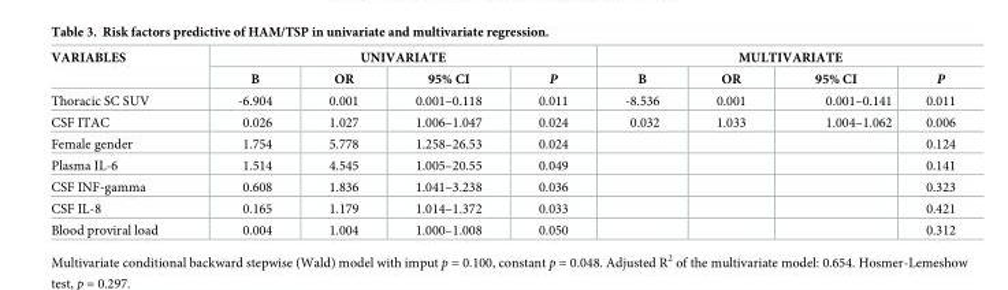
<table><thead><tr><td rowspan="2">VARIABLES</td><td colspan="4">UNIVARIATE</td><td colspan="4">MULTIVARIATE</td></tr><tr><td>B</td><td>OR</td><td>95% CI</td><td>P</td><td>B</td><td>OR</td><td>95% CI</td><td>P</td></tr></thead><tbody><tr><td>Thoracic SC SUV</td><td>-6.904</td><td>0.001</td><td>0.001–0.118</td><td>0.011</td><td>-8.536</td><td>0.001</td><td>0.001–0.141</td><td>0.011</td></tr><tr><td>CSF ITAC</td><td>0.026</td><td>1.027</td><td>1.006–1.047</td><td>0.024</td><td>0.032</td><td>1.033</td><td>1.004–1.062</td><td>0.006</td></tr><tr><td>Female gender</td><td>1.754</td><td>5.778</td><td>1.258–26.53</td><td>0.024</td><td></td><td></td><td></td><td>0.124</td></tr><tr><td>Plasma IL-6</td><td>1.514</td><td>4.545</td><td>1.005–20.55</td><td>0.049</td><td></td><td></td><td></td><td>0.141</td></tr><tr><td>CSF INF-gamma</td><td>0.608</td><td>1.836</td><td>1.041–3.238</td><td>0.036</td><td></td><td></td><td></td><td>0.323</td></tr><tr><td>CSF IL-8</td><td>0.165</td><td>1.179</td><td>1.014–1.372</td><td>0.033</td><td></td><td></td><td></td><td>0.421</td></tr><tr><td>Blood proviral load</td><td>0.004</td><td>1.004</td><td>1.000–1.008</td><td>0.050</td><td></td><td></td><td></td><td>0.312</td></tr></tbody></table>